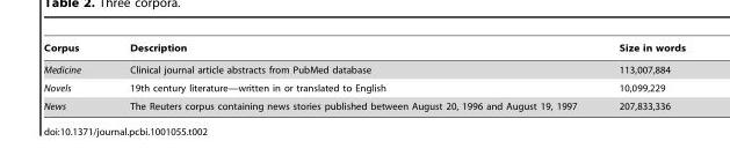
<table><thead><tr><td>Corpus</td><td>Description</td><td>Size in words</td></tr></thead><tbody><tr><td>Medicine</td><td>Clinical journal article abstracts from PubMed database</td><td>113,007,884</td></tr><tr><td>Novels</td><td>19th century literature—written in or translated to English</td><td>10,099,229</td></tr><tr><td>News</td><td>The Reuters corpus containing news stories published between August 20, 1996 and August 19, 1997</td><td>207,833,336</td></tr></tbody></table>